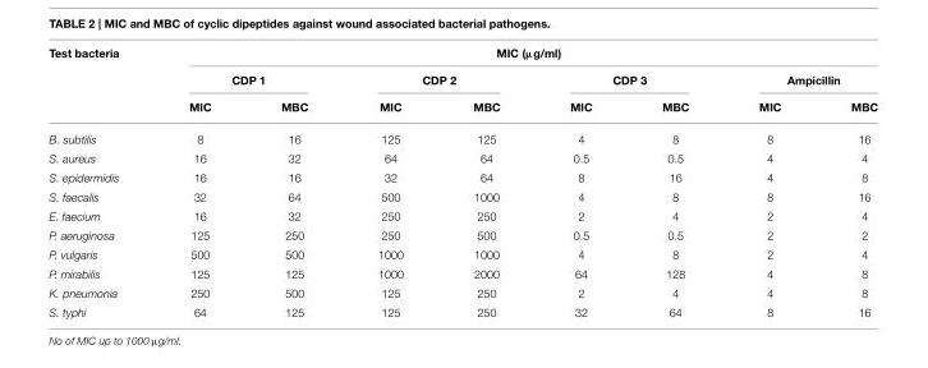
<table><thead><tr><td rowspan="3">Test bacteria</td><td colspan="8">MIC (µg/ml)</td></tr><tr><td colspan="2">CDP 1</td><td colspan="2">CDP 2</td><td colspan="2">CDP 3</td><td colspan="2">Ampicillin</td></tr><tr><td>MIC</td><td>MBC</td><td>MIC</td><td>MBC</td><td>MIC</td><td>MBC</td><td>MIC</td><td>MBC</td></tr></thead><tbody><tr><td>B. subtilis</td><td>8</td><td>16</td><td>125</td><td>125</td><td>4</td><td>8</td><td>8</td><td>16</td></tr><tr><td>S. aureus</td><td>16</td><td>32</td><td>64</td><td>64</td><td>0.5</td><td>0.5</td><td>4</td><td>4</td></tr><tr><td>S. epidermidis</td><td>16</td><td>16</td><td>32</td><td>64</td><td>8</td><td>16</td><td>4</td><td>8</td></tr><tr><td>S. faecalis</td><td>32</td><td>64</td><td>500</td><td>1000</td><td>4</td><td>8</td><td>8</td><td>16</td></tr><tr><td>E. faecium</td><td>16</td><td>32</td><td>250</td><td>250</td><td>2</td><td>4</td><td>2</td><td>4</td></tr><tr><td>P. aeruginosa</td><td>125</td><td>250</td><td>250</td><td>500</td><td>0.5</td><td>0.5</td><td>2</td><td>2</td></tr><tr><td>P. vulgaris</td><td>500</td><td>500</td><td>1000</td><td>1000</td><td>4</td><td>8</td><td>2</td><td>4</td></tr><tr><td>P. mirabilis</td><td>125</td><td>125</td><td>1000</td><td>2000</td><td>64</td><td>128</td><td>4</td><td>8</td></tr><tr><td>K. pneumonia</td><td>250</td><td>500</td><td>125</td><td>250</td><td>2</td><td>4</td><td>4</td><td>8</td></tr><tr><td>S. typhi</td><td>64</td><td>125</td><td>125</td><td>250</td><td>32</td><td>64</td><td>8</td><td>16</td></tr></tbody></table>